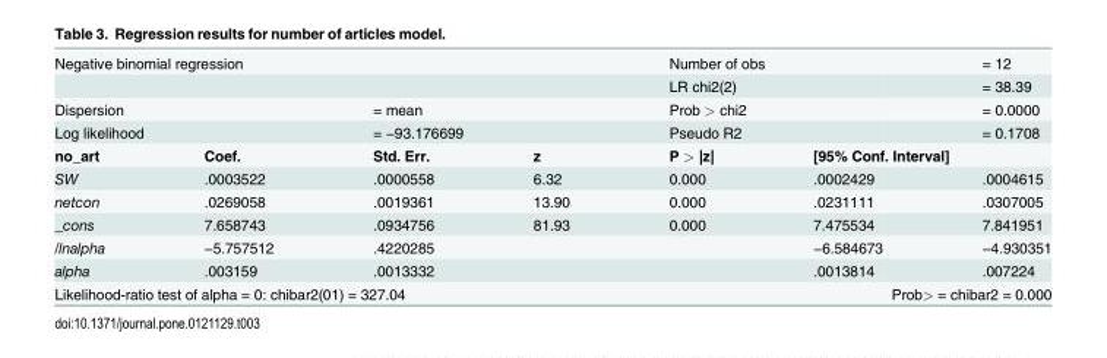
<table><tbody><tr><td rowspan="2" colspan="4">Negative binomial regression</td><td colspan="2">Number of obs</td><td>= 12</td></tr><tr><td colspan="2">LR chi2(2)</td><td>= 38.39</td></tr><tr><td colspan="2">Dispersion</td><td colspan="2">= mean</td><td colspan="2">Prob &gt; chi2</td><td>= 0.0000</td></tr><tr><td colspan="2">Log likelihood</td><td colspan="2">= −93.176699</td><td colspan="2">Pseudo R2</td><td>= 0.1708</td></tr><tr><td>no_art</td><td>Coef.</td><td>Std. Err.</td><td>z</td><td>P &gt; |z|</td><td colspan="2">[95% Conf. Interval]</td></tr><tr><td>SW</td><td>.0003522</td><td>.0000558</td><td>6.32</td><td>0.000</td><td>.0002429</td><td>.0004615</td></tr><tr><td>netcon</td><td>.0269058</td><td>.0019361</td><td>13.90</td><td>0.000</td><td>.0231111</td><td>.0307005</td></tr><tr><td>_cons</td><td>7.658743</td><td>.0934756</td><td>81.93</td><td>0.000</td><td>7.475534</td><td>7.841951</td></tr><tr><td>/lnalpha</td><td>−5.757512</td><td>.4220285</td><td></td><td></td><td>−6.584673</td><td>−4.930351</td></tr><tr><td>alpha</td><td>.003159</td><td>.0013332</td><td></td><td></td><td>.0013814</td><td>.007224</td></tr><tr><td colspan="4">Likelihood-ratio test of alpha = 0: chibar2(01) = 327.04</td><td colspan="3">Prob&gt; = chibar2 = 0.000</td></tr></tbody></table>